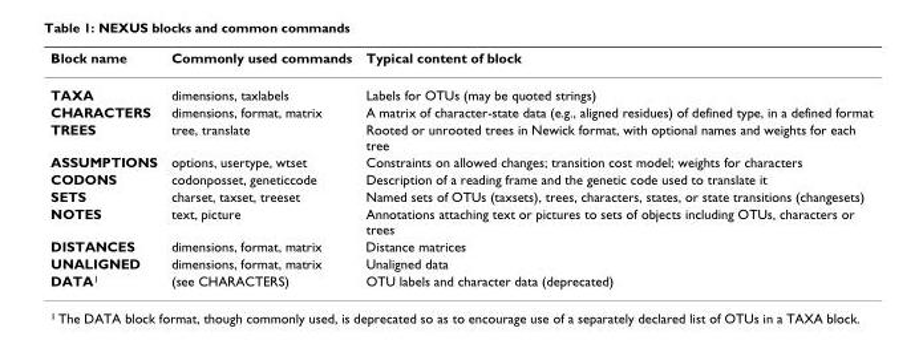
<table><thead><tr><td>Block name</td><td>Commonly used commands</td><td>Typical content of block</td></tr></thead><tbody><tr><td>TAXA</td><td>dimensions, taxlabels</td><td>Labels for OTUs (may be quoted strings)</td></tr><tr><td>CHARACTERS</td><td>dimensions, format, matrix</td><td>A matrix of character-state data (e.g., aligned residues) of defined type, in a defined format</td></tr><tr><td>TREES</td><td>tree, translate</td><td>Rooted or unrooted trees in Newick format, with optional names and weights for each tree</td></tr><tr><td>ASSUMPTIONS</td><td>options, usertype, wtset</td><td>Constraints on allowed changes; transition cost model; weights for characters</td></tr><tr><td>CODONS</td><td>codonposset, geneticcode</td><td>Description of a reading frame and the genetic code used to translate it</td></tr><tr><td>SETS</td><td>charset, taxset, treeset</td><td>Named sets of OTUs (taxsets), trees, characters, states, or state transitions (changesets)</td></tr><tr><td>NOTES</td><td>text, picture</td><td>Annotations attaching text or pictures to sets of objects including OTUs, characters or trees</td></tr><tr><td>DISTANCES</td><td>dimensions, format, matrix</td><td>Distance matrices</td></tr><tr><td>UNALIGNED</td><td>dimensions, format, matrix</td><td>Unaligned data</td></tr><tr><td>DATA<sup>1</sup></td><td>(see CHARACTERS)</td><td>OTU labels and character data (deprecated)</td></tr></tbody></table>